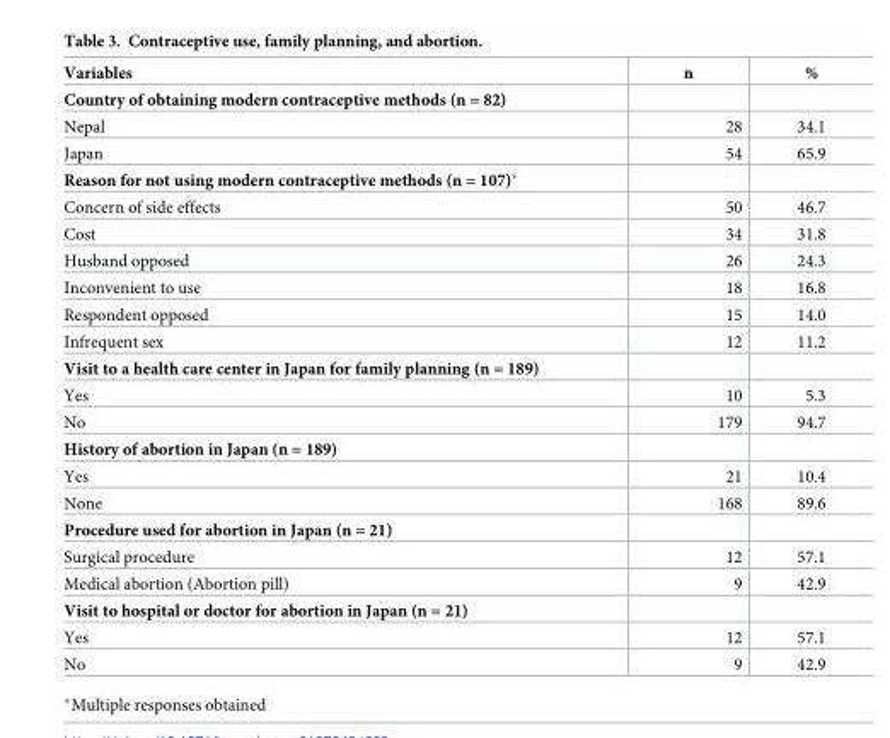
<table><thead><tr><td>Variables</td><td>n</td><td>%</td></tr></thead><tbody><tr><td colspan="3">Country of obtaining modern contraceptive methods (n = 82)</td></tr><tr><td>Nepal</td><td>28</td><td>34.1</td></tr><tr><td>Japan</td><td>54</td><td>65.9</td></tr><tr><td colspan="3">Reason for not using modern contraceptive methods (n = 107)*</td></tr><tr><td>Concern of side effects</td><td>50</td><td>46.7</td></tr><tr><td>Cost</td><td>34</td><td>31.8</td></tr><tr><td>Husband opposed</td><td>26</td><td>24.3</td></tr><tr><td>Inconvenient to use</td><td>18</td><td>16.8</td></tr><tr><td>Respondent opposed</td><td>15</td><td>14.0</td></tr><tr><td>Infrequent sex</td><td>12</td><td>11.2</td></tr><tr><td colspan="3">Visit to a health care center in Japan for family planning (n = 189)</td></tr><tr><td>Yes</td><td>10</td><td>5.3</td></tr><tr><td>No</td><td>179</td><td>94.7</td></tr><tr><td colspan="3">History of abortion in Japan (n = 189)</td></tr><tr><td>Yes</td><td>21</td><td>10.4</td></tr><tr><td>None</td><td>168</td><td>89.6</td></tr><tr><td colspan="3">Procedure used for abortion in Japan (n = 21)</td></tr><tr><td>Surgical procedure</td><td>12</td><td>57.1</td></tr><tr><td>Medical abortion (Abortion pill)</td><td>9</td><td>42.9</td></tr><tr><td colspan="3">Visit to hospital or doctor for abortion in Japan (n = 21)</td></tr><tr><td>Yes</td><td>12</td><td>57.1</td></tr><tr><td>No</td><td>9</td><td>42.9</td></tr></tbody></table>